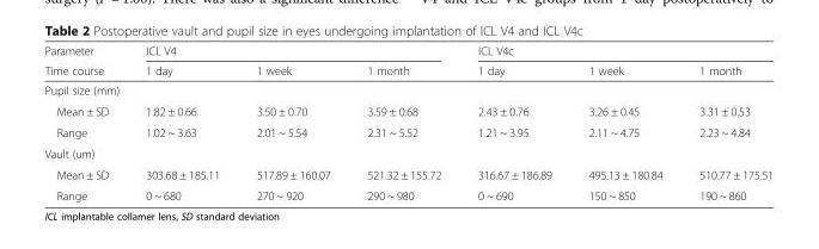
<table><thead><tr><td rowspan="2">Parameter Time course</td><td colspan="3">ICL V4</td><td colspan="3">ICL V4c</td></tr><tr><td>1 day</td><td>1 week</td><td>1 month</td><td>1 day</td><td>1 week</td><td>1 month</td></tr></thead><tbody><tr><td colspan="7">Pupil size (mm)</td></tr><tr><td>Mean ± SD</td><td>1.82 ± 0.66</td><td>3.50 ± 0.70</td><td>3.59 ± 0.68</td><td>2.43 ± 0.76</td><td>3.26 ± 0.45</td><td>3.31 ± 0.53</td></tr><tr><td>Range</td><td>1.02 ~ 3.63</td><td>2.01 ~ 5.54</td><td>2.31 ~ 5.52</td><td>1.21 ~ 3.95</td><td>2.11 ~ 4.75</td><td>2.23 ~ 4.84</td></tr><tr><td colspan="7">Vault (um)</td></tr><tr><td>Mean ± SD</td><td>303.68 ± 185.11</td><td>517.89 ± 160.07</td><td>521.32 ± 155.72</td><td>316.67 ± 186.89</td><td>495.13 ± 180.84</td><td>510.77 ± 175.51</td></tr><tr><td>Range</td><td>0 ~ 680</td><td>270 ~ 920</td><td>290 ~ 980</td><td>0 ~ 690</td><td>150 ~ 850</td><td>190 ~ 860</td></tr></tbody></table>